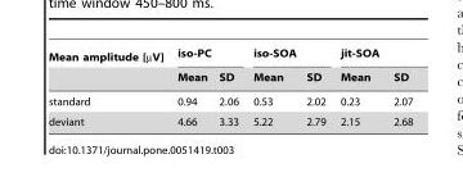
<table><thead><tr><td rowspan="2">Mean amplitude [µV]</td><td colspan="2">iso-PC</td><td colspan="2">iso-SOA</td><td colspan="2">jit-SOA</td></tr><tr><td>Mean</td><td>SD</td><td>Mean</td><td>SD</td><td>Mean</td><td>SD</td></tr></thead><tbody><tr><td>standard</td><td>0.94</td><td>2.06</td><td>0.53</td><td>2.02</td><td>0.23</td><td>2.07</td></tr><tr><td>deviant</td><td>4.66</td><td>3.33</td><td>5.22</td><td>2.79</td><td>2.15</td><td>2.68</td></tr></tbody></table>